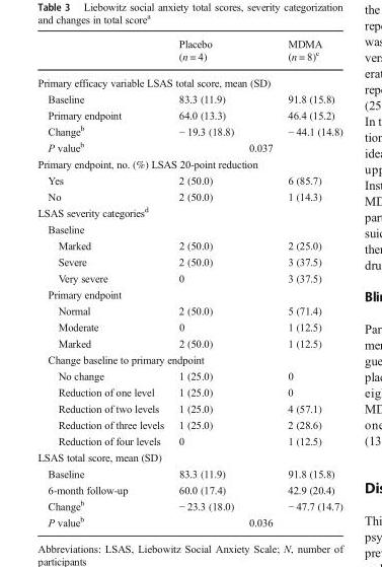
<table><thead><tr><td></td><td>Placebo (n = 4)</td><td></td><td>MDMA (n = 8)<sup>c</sup></td></tr></thead><tbody><tr><td colspan="4">Primary efficacy variable LSAS total score, mean (SD)</td></tr><tr><td>Baseline</td><td>83.3 (11.9)</td><td></td><td>91.8 (15.8)</td></tr><tr><td>Primary endpoint</td><td>64.0 (13.3)</td><td></td><td>46.4 (15.2)</td></tr><tr><td>Change<sup>b</sup></td><td>− 19.3 (18.8)</td><td></td><td>− 44.1 (14.8)</td></tr><tr><td>P value<sup>b</sup></td><td></td><td>0.037</td><td></td></tr><tr><td colspan="4">Primary endpoint, no. (%) LSAS 20-point reduction</td></tr><tr><td>Yes</td><td>2 (50.0)</td><td></td><td>6 (85.7)</td></tr><tr><td>No</td><td>2 (50.0)</td><td></td><td>1 (14.3)</td></tr><tr><td colspan="4">LSAS severity categories<sup>d</sup></td></tr><tr><td colspan="4">Baseline</td></tr><tr><td>Marked</td><td>2 (50.0)</td><td></td><td>2 (25.0)</td></tr><tr><td>Severe</td><td>2 (50.0)</td><td></td><td>3 (37.5)</td></tr><tr><td>Very severe</td><td>0</td><td></td><td>3 (37.5)</td></tr><tr><td colspan="4">Primary endpoint</td></tr><tr><td>Normal</td><td>2 (50.0)</td><td></td><td>5 (71.4)</td></tr><tr><td>Moderate</td><td>0</td><td></td><td>1 (12.5)</td></tr><tr><td>Marked</td><td>2 (50.0)</td><td></td><td>1 (12.5)</td></tr><tr><td colspan="4">Change baseline to primary endpoint</td></tr><tr><td>No change</td><td>1 (25.0)</td><td></td><td>0</td></tr><tr><td>Reduction of one level</td><td>1 (25.0)</td><td></td><td>0</td></tr><tr><td>Reduction of two levels</td><td>1 (25.0)</td><td></td><td>4 (57.1)</td></tr><tr><td>Reduction of three levels</td><td>1 (25.0)</td><td></td><td>2 (28.6)</td></tr><tr><td>Reduction of four levels</td><td>0</td><td></td><td>1 (12.5)</td></tr><tr><td colspan="4">LSAS total score, mean (SD)</td></tr><tr><td>Baseline</td><td>83.3 (11.9)</td><td></td><td>91.8 (15.8)</td></tr><tr><td>6-month follow-up</td><td>60.0 (17.4)</td><td></td><td>42.9 (20.4)</td></tr><tr><td>Change<sup>b</sup></td><td>− 23.3 (18.0)</td><td></td><td>− 47.7 (14.7)</td></tr><tr><td>P value<sup>b</sup></td><td></td><td>0.036</td><td></td></tr></tbody></table>